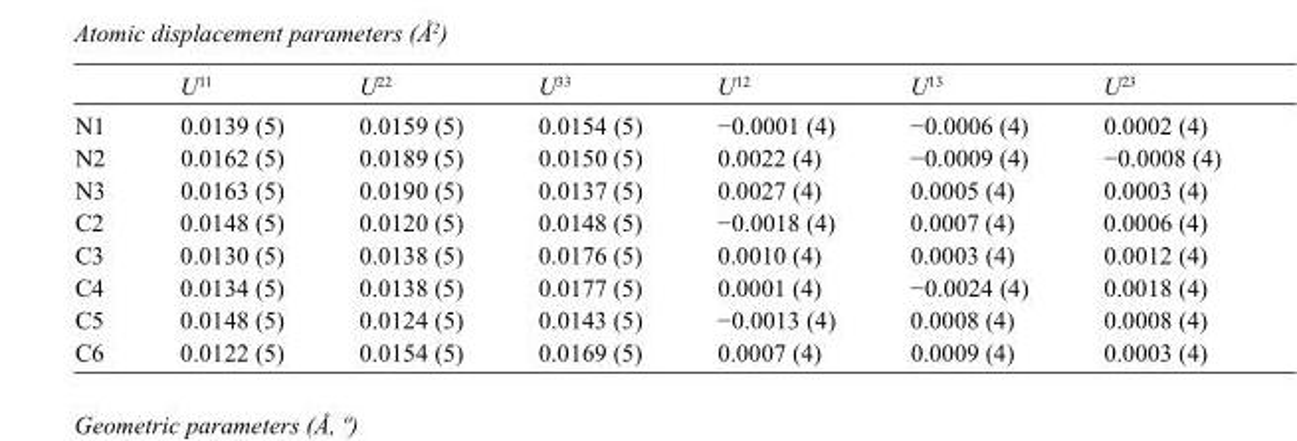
<table><thead><tr><td></td><td>U<sup>11</sup></td><td>U<sup>22</sup></td><td>U<sup>33</sup></td><td>U<sup>12</sup></td><td>U<sup>13</sup></td><td>U<sup>23</sup></td></tr></thead><tbody><tr><td>N1</td><td>0.0139 (5)</td><td>0.0159 (5)</td><td>0.0154 (5)</td><td>−0.0001 (4)</td><td>−0.0006 (4)</td><td>0.0002 (4)</td></tr><tr><td>N2</td><td>0.0162 (5)</td><td>0.0189 (5)</td><td>0.0150 (5)</td><td>0.0022 (4)</td><td>−0.0009 (4)</td><td>−0.0008 (4)</td></tr><tr><td>N3</td><td>0.0163 (5)</td><td>0.0190 (5)</td><td>0.0137 (5)</td><td>0.0027 (4)</td><td>0.0005 (4)</td><td>0.0003 (4)</td></tr><tr><td>C2</td><td>0.0148 (5)</td><td>0.0120 (5)</td><td>0.0148 (5)</td><td>−0.0018 (4)</td><td>0.0007 (4)</td><td>0.0006 (4)</td></tr><tr><td>C3</td><td>0.0130 (5)</td><td>0.0138 (5)</td><td>0.0176 (5)</td><td>0.0010 (4)</td><td>0.0003 (4)</td><td>0.0012 (4)</td></tr><tr><td>C4</td><td>0.0134 (5)</td><td>0.0138 (5)</td><td>0.0177 (5)</td><td>0.0001 (4)</td><td>−0.0024 (4)</td><td>0.0018 (4)</td></tr><tr><td>C5</td><td>0.0148 (5)</td><td>0.0124 (5)</td><td>0.0143 (5)</td><td>−0.0013 (4)</td><td>0.0008 (4)</td><td>0.0008 (4)</td></tr><tr><td>C6</td><td>0.0122 (5)</td><td>0.0154 (5)</td><td>0.0169 (5)</td><td>0.0007 (4)</td><td>0.0009 (4)</td><td>0.0003 (4)</td></tr></tbody></table>